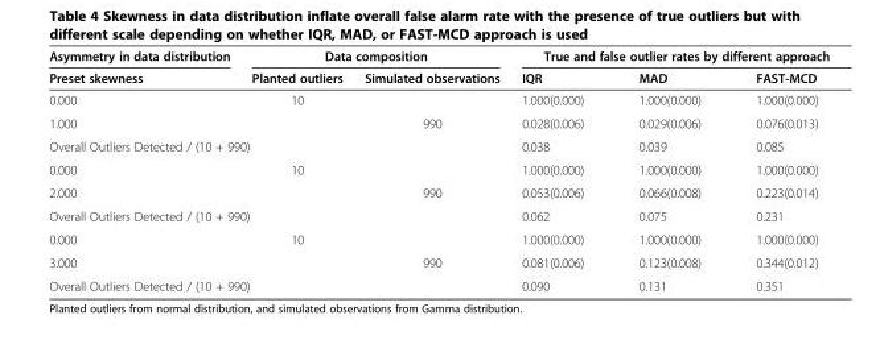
<table><thead><tr><td rowspan="2">Asymmetry in data distribution Preset skewness</td><td colspan="2">Data composition</td><td colspan="3">True and false outlier rates by different approach</td></tr><tr><td>Planted outliers</td><td>Simulated observations</td><td>IQR</td><td>MAD</td><td>FAST-MCD</td></tr></thead><tbody><tr><td>0.000</td><td>10</td><td></td><td>1.000(0.000)</td><td>1.000(0.000)</td><td>1.000(0.000)</td></tr><tr><td>1.000</td><td></td><td>990</td><td>0.028(0.006)</td><td>0.029(0.006)</td><td>0.076(0.013)</td></tr><tr><td colspan="3">Overall Outliers Detected / (10 + 990)</td><td>0.038</td><td>0.039</td><td>0.085</td></tr><tr><td>0.000</td><td>10</td><td></td><td>1.000(0.000)</td><td>1.000(0.000)</td><td>1.000(0.000)</td></tr><tr><td>2.000</td><td></td><td>990</td><td>0.053(0.006)</td><td>0.066(0.008)</td><td>0.223(0.014)</td></tr><tr><td colspan="3">Overall Outliers Detected / (10 + 990)</td><td>0.062</td><td>0.075</td><td>0.231</td></tr><tr><td>0.000</td><td>10</td><td></td><td>1.000(0.000)</td><td>1.000(0.000)</td><td>1.000(0.000)</td></tr><tr><td>3.000</td><td></td><td>990</td><td>0.081(0.006)</td><td>0.123(0.008)</td><td>0.344(0.012)</td></tr><tr><td colspan="3">Overall Outliers Detected / (10 + 990)</td><td>0.090</td><td>0.131</td><td>0.351</td></tr></tbody></table>